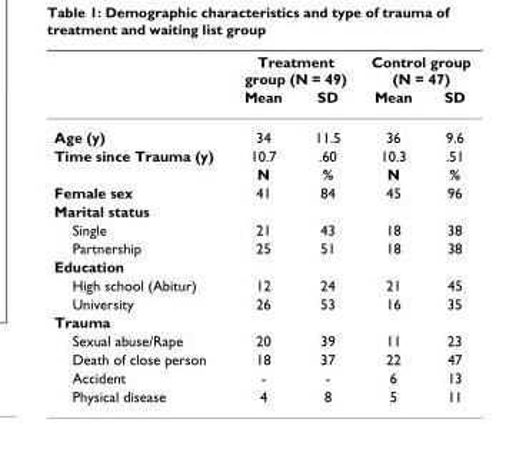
<table><thead><tr><td rowspan="2"></td><td colspan="2">Treatment group (N = 49)</td><td colspan="2">Control group (N = 47)</td></tr><tr><td>Mean</td><td>SD</td><td>Mean</td><td>SD</td></tr></thead><tbody><tr><td>Age (y)</td><td>34</td><td>11.5</td><td>36</td><td>9.6</td></tr><tr><td rowspan="2">Time since Trauma (y)</td><td>10.7</td><td>.60</td><td>10.3</td><td>.51</td></tr><tr><td>N</td><td>%</td><td>N</td><td>%</td></tr><tr><td>Female sex</td><td>41</td><td>84</td><td>45</td><td>96</td></tr><tr><td colspan="5">Marital status</td></tr><tr><td>Single</td><td>21</td><td>43</td><td>18</td><td>38</td></tr><tr><td>Partnership</td><td>25</td><td>51</td><td>18</td><td>38</td></tr><tr><td colspan="5">Education</td></tr><tr><td>High school (Abitur)</td><td>12</td><td>24</td><td>21</td><td>45</td></tr><tr><td>University</td><td>26</td><td>53</td><td>16</td><td>35</td></tr><tr><td colspan="5">Trauma</td></tr><tr><td>Sexual abuse/Rape</td><td>20</td><td>39</td><td>11</td><td>23</td></tr><tr><td>Death of close person</td><td>18</td><td>37</td><td>22</td><td>47</td></tr><tr><td>Accident</td><td>-</td><td>-</td><td>6</td><td>13</td></tr><tr><td>Physical disease</td><td>4</td><td>8</td><td>5</td><td>11</td></tr></tbody></table>